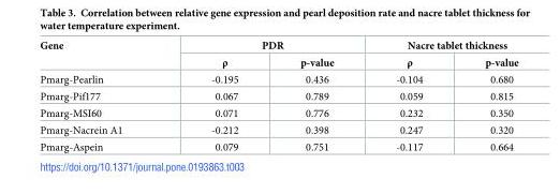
<table><thead><tr><td rowspan="2">Gene</td><td colspan="2">PDR</td><td colspan="2">Nacre tablet thickness</td></tr><tr><td>ρ</td><td>p-value</td><td>ρ</td><td>p-value</td></tr></thead><tbody><tr><td>Pmarg-Pearlin</td><td>-0.195</td><td>0.436</td><td>-0.104</td><td>0.680</td></tr><tr><td>Pmarg-Pif177</td><td>0.067</td><td>0.789</td><td>0.059</td><td>0.815</td></tr><tr><td>Pmarg-MSI60</td><td>0.071</td><td>0.776</td><td>0.232</td><td>0.350</td></tr><tr><td>Pmarg-Nacrein A1</td><td>-0.212</td><td>0.398</td><td>0.247</td><td>0.320</td></tr><tr><td>Pmarg-Aspein</td><td>0.079</td><td>0.751</td><td>-0.117</td><td>0.664</td></tr></tbody></table>